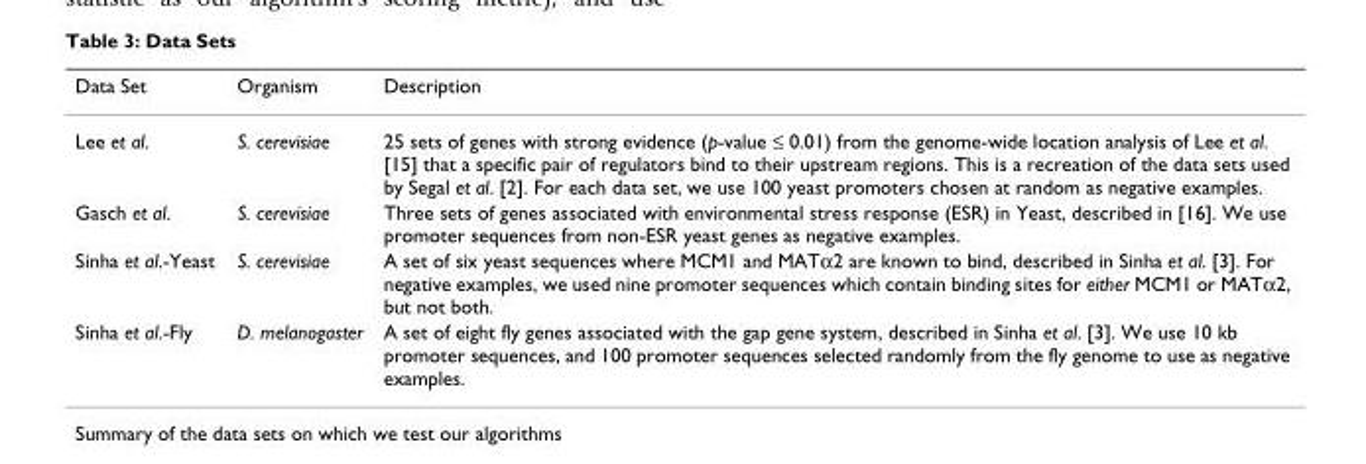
<table><thead><tr><td>Data Set</td><td>Organism</td><td>Description</td></tr></thead><tbody><tr><td>Lee et al.</td><td>S. cerevisiae</td><td>25 sets of genes with strong evidence (p-value ≤ 0.01) from the genome-wide location analysis of Lee et al. [15] that a specific pair of regulators bind to their upstream regions. This is a recreation of the data sets used by Segal et al. [2]. For each data set, we use 100 yeast promoters chosen at random as negative examples.</td></tr><tr><td>Gasch et al.</td><td>S. cerevisiae</td><td>Three sets of genes associated with environmental stress response (ESR) in Yeast, described in [16]. We use promoter sequences from non-ESR yeast genes as negative examples.</td></tr><tr><td>Sinha et al.-Yeast</td><td>S. cerevisiae</td><td>A set of six yeast sequences where MCM1 and MATα2 are known to bind, described in Sinha et al. [3]. For negative examples, we used nine promoter sequences which contain binding sites for either MCM1 or MATα2, but not both.</td></tr><tr><td>Sinha et al.-Fly</td><td>D. melanogaster</td><td>A set of eight fly genes associated with the gap gene system, described in Sinha et al. [3]. We use 10 kb promoter sequences, and 100 promoter sequences selected randomly from the fly genome to use as negative examples.</td></tr></tbody></table>